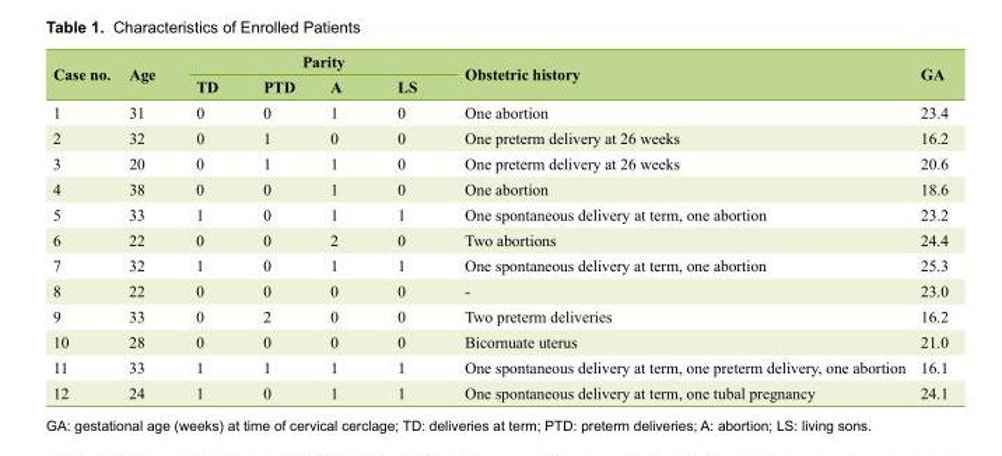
<table><thead><tr><td rowspan="2">Case no.</td><td rowspan="2">Age</td><td colspan="4">Parity</td><td rowspan="2">Obstetric history</td><td rowspan="2">GA</td></tr><tr><td>TD</td><td>PTD</td><td>A</td><td>LS</td></tr></thead><tbody><tr><td>1</td><td>31</td><td>0</td><td>0</td><td>1</td><td>0</td><td>One abortion</td><td>23.4</td></tr><tr><td>2</td><td>32</td><td>0</td><td>1</td><td>0</td><td>0</td><td>One preterm delivery at 26 weeks</td><td>16.2</td></tr><tr><td>3</td><td>20</td><td>0</td><td>1</td><td>1</td><td>0</td><td>One preterm delivery at 26 weeks</td><td>20.6</td></tr><tr><td>4</td><td>38</td><td>0</td><td>0</td><td>1</td><td>0</td><td>One abortion</td><td>18.6</td></tr><tr><td>5</td><td>33</td><td>1</td><td>0</td><td>1</td><td>1</td><td>One spontaneous delivery at term, one abortion</td><td>23.2</td></tr><tr><td>6</td><td>22</td><td>0</td><td>0</td><td>2</td><td>0</td><td>Two abortions</td><td>24.4</td></tr><tr><td>7</td><td>32</td><td>1</td><td>0</td><td>1</td><td>1</td><td>One spontaneous delivery at term, one abortion</td><td>25.3</td></tr><tr><td>8</td><td>22</td><td>0</td><td>0</td><td>0</td><td>0</td><td>-</td><td>23.0</td></tr><tr><td>9</td><td>33</td><td>0</td><td>2</td><td>0</td><td>0</td><td>Two preterm deliveries</td><td>16.2</td></tr><tr><td>10</td><td>28</td><td>0</td><td>0</td><td>0</td><td>0</td><td>Bicornuate uterus</td><td>21.0</td></tr><tr><td>11</td><td>33</td><td>1</td><td>1</td><td>1</td><td>1</td><td>One spontaneous delivery at term, one preterm delivery, one abortion</td><td>16.1</td></tr><tr><td>12</td><td>24</td><td>1</td><td>0</td><td>1</td><td>1</td><td>One spontaneous delivery at term, one tubal pregnancy</td><td>24.1</td></tr></tbody></table>